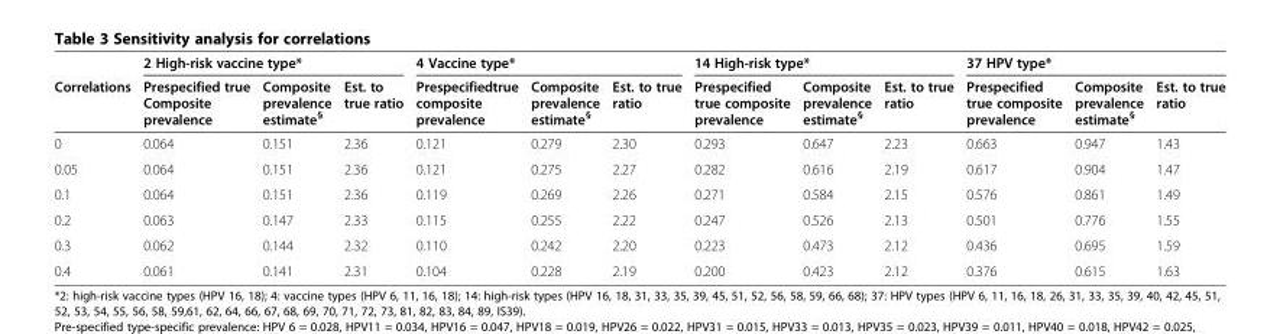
<table><thead><tr><td rowspan="2">Correlations</td><td colspan="3">2 High-risk vaccine type*</td><td colspan="3">4 Vaccine type*</td><td colspan="3">14 High-risk type*</td><td colspan="3">37 HPV type*</td></tr><tr><td>Prespecified true Composite prevalence</td><td>Composite prevalence estimate<sup>§</sup></td><td>Est. to true ratio</td><td>Prespecifiedtrue composite prevalence</td><td>Composite prevalence estimate<sup>§</sup></td><td>Est. to true ratio</td><td>Prespecified true composite prevalence</td><td>Composite prevalence estimate<sup>§</sup></td><td>Est. to true ratio</td><td>Prespecified true composite prevalence</td><td>Composite prevalence estimate<sup>§</sup></td><td>Est. to true ratio</td></tr></thead><tbody><tr><td>0</td><td>0.064</td><td>0.151</td><td>2.36</td><td>0.121</td><td>0.279</td><td>2.30</td><td>0.293</td><td>0.647</td><td>2.23</td><td>0.663</td><td>0.947</td><td>1.43</td></tr><tr><td>0.05</td><td>0.064</td><td>0.151</td><td>2.36</td><td>0.121</td><td>0.275</td><td>2.27</td><td>0.282</td><td>0.616</td><td>2.19</td><td>0.617</td><td>0.904</td><td>1.47</td></tr><tr><td>0.1</td><td>0.064</td><td>0.151</td><td>2.36</td><td>0.119</td><td>0.269</td><td>2.26</td><td>0.271</td><td>0.584</td><td>2.15</td><td>0.576</td><td>0.861</td><td>1.49</td></tr><tr><td>0.2</td><td>0.063</td><td>0.147</td><td>2.33</td><td>0.115</td><td>0.255</td><td>2.22</td><td>0.247</td><td>0.526</td><td>2.13</td><td>0.501</td><td>0.776</td><td>1.55</td></tr><tr><td>0.3</td><td>0.062</td><td>0.144</td><td>2.32</td><td>0.110</td><td>0.242</td><td>2.20</td><td>0.223</td><td>0.473</td><td>2.12</td><td>0.436</td><td>0.695</td><td>1.59</td></tr><tr><td>0.4</td><td>0.061</td><td>0.141</td><td>2.31</td><td>0.104</td><td>0.228</td><td>2.19</td><td>0.200</td><td>0.423</td><td>2.12</td><td>0.376</td><td>0.615</td><td>1.63</td></tr></tbody></table>